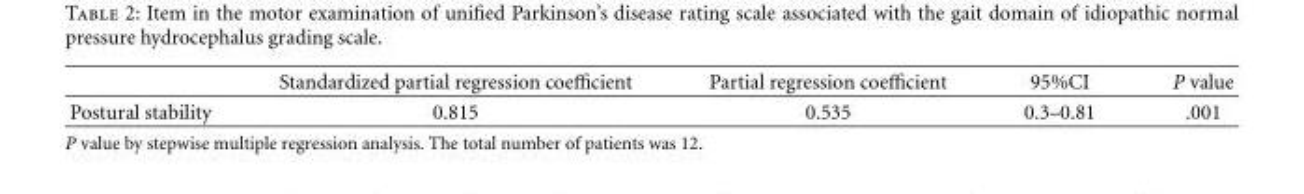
<table><thead><tr><td></td><td>Standardized partial regression coefficient</td><td>Partial regression coefficient</td><td>95%CI</td><td>P value</td></tr></thead><tbody><tr><td>Postural stability</td><td>0.815</td><td>0.535</td><td>0.3–0.81</td><td>.001</td></tr></tbody></table>